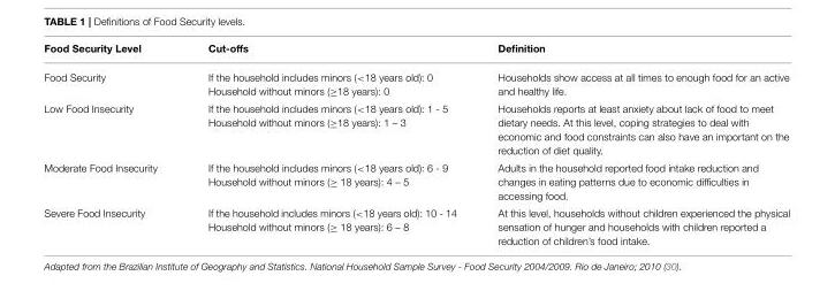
<table><thead><tr><td>Food Security Level</td><td>Cut-offs</td><td>Definition</td></tr></thead><tbody><tr><td>Food Security</td><td>If the household includes minors (&lt;18 years old): 0 Household without minors (≥18 years): 0</td><td>Households show access at all times to enough food for an active and healthy life.</td></tr><tr><td>Low Food Insecurity</td><td>If the household includes minors (&lt;18 years old): 1 - 5 Household without minors (≥18 years): 1 – 3</td><td>Households reports at least anxiety about lack of food to meet dietary needs. At this level, coping strategies to deal with economic and food constraints can also have an important on the reduction of diet quality.</td></tr><tr><td>Moderate Food Insecurity</td><td>If the household includes minors (&lt;18 years old): 6 - 9 Household without minors (≥ 18 years): 4 – 5</td><td>Adults in the household reported food intake reduction and changes in eating patterns due to economic difficulties in accessing food.</td></tr><tr><td>Severe Food Insecurity</td><td>If the household includes minors (&lt;18 years old): 10 - 14 Household without minors (≥ 18 years): 6 – 8</td><td>At this level, households without children experienced the physical sensation of hunger and households with children reported a reduction of children’s food intake.</td></tr></tbody></table>